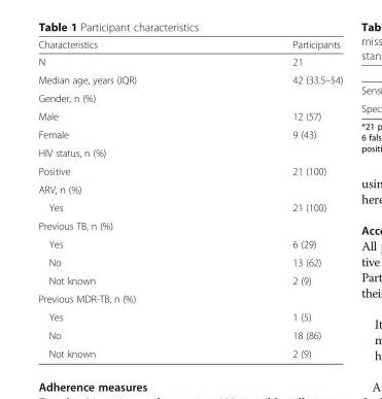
<table><thead><tr><td>Characteristics</td><td>Participants</td></tr></thead><tbody><tr><td>N</td><td>21</td></tr><tr><td>Median age, years (IQR)</td><td>42 (33.5–54)</td></tr><tr><td colspan="2">Gender, n (%)</td></tr><tr><td>Male</td><td>12 (57)</td></tr><tr><td>Female</td><td>9 (43)</td></tr><tr><td colspan="2">HIV status, n (%)</td></tr><tr><td>Positive</td><td>21 (100)</td></tr><tr><td colspan="2">ARV, n (%)</td></tr><tr><td>Yes</td><td>21 (100)</td></tr><tr><td colspan="2">Previous TB, n (%)</td></tr><tr><td>Yes</td><td>6 (29)</td></tr><tr><td>No</td><td>13 (62)</td></tr><tr><td>Not known</td><td>2 (9)</td></tr><tr><td colspan="2">Previous MDR-TB, n (%)</td></tr><tr><td>Yes</td><td>1 (5)</td></tr><tr><td>No</td><td>18 (86)</td></tr><tr><td>Not known</td><td>2 (9)</td></tr></tbody></table>